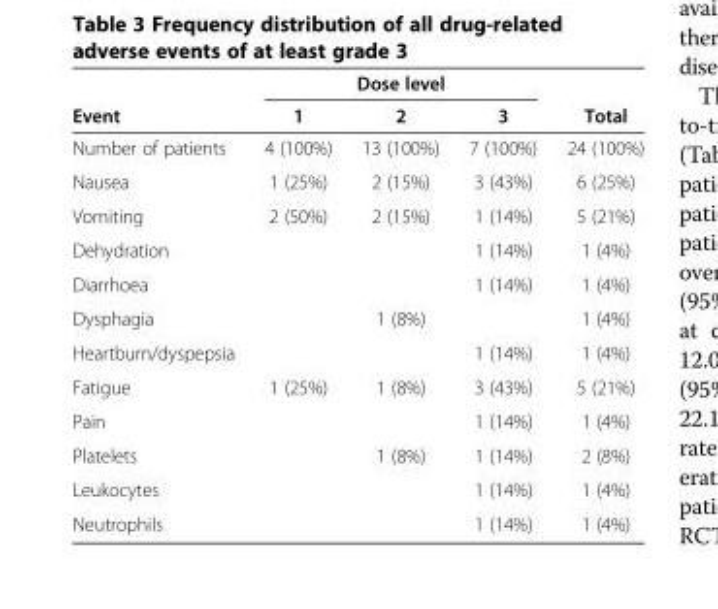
<table><thead><tr><td rowspan="2">Event</td><td colspan="3">Dose level</td><td rowspan="2">Total</td></tr><tr><td>1</td><td>2</td><td>3</td></tr></thead><tbody><tr><td>Number of patients</td><td>4 (100%)</td><td>13 (100%)</td><td>7 (100%)</td><td>24 (100%)</td></tr><tr><td>Nausea</td><td>1 (25%)</td><td>2 (15%)</td><td>3 (43%)</td><td>6 (25%)</td></tr><tr><td>Vomiting</td><td>2 (50%)</td><td>2 (15%)</td><td>1 (14%)</td><td>5 (21%)</td></tr><tr><td>Dehydration</td><td></td><td></td><td>1 (14%)</td><td>1 (4%)</td></tr><tr><td>Diarrhoea</td><td></td><td></td><td>1 (14%)</td><td>1 (4%)</td></tr><tr><td>Dysphagia</td><td></td><td>1 (8%)</td><td></td><td>1 (4%)</td></tr><tr><td>Heartburn/dyspepsia</td><td></td><td></td><td>1 (14%)</td><td>1 (4%)</td></tr><tr><td>Fatigue</td><td>1 (25%)</td><td>1 (8%)</td><td>3 (43%)</td><td>5 (21%)</td></tr><tr><td>Pain</td><td></td><td></td><td>1 (14%)</td><td>1 (4%)</td></tr><tr><td>Platelets</td><td></td><td>1 (8%)</td><td>1 (14%)</td><td>2 (8%)</td></tr><tr><td>Leukocytes</td><td></td><td></td><td>1 (14%)</td><td>1 (4%)</td></tr><tr><td>Neutrophils</td><td></td><td></td><td>1 (14%)</td><td>1 (4%)</td></tr></tbody></table>